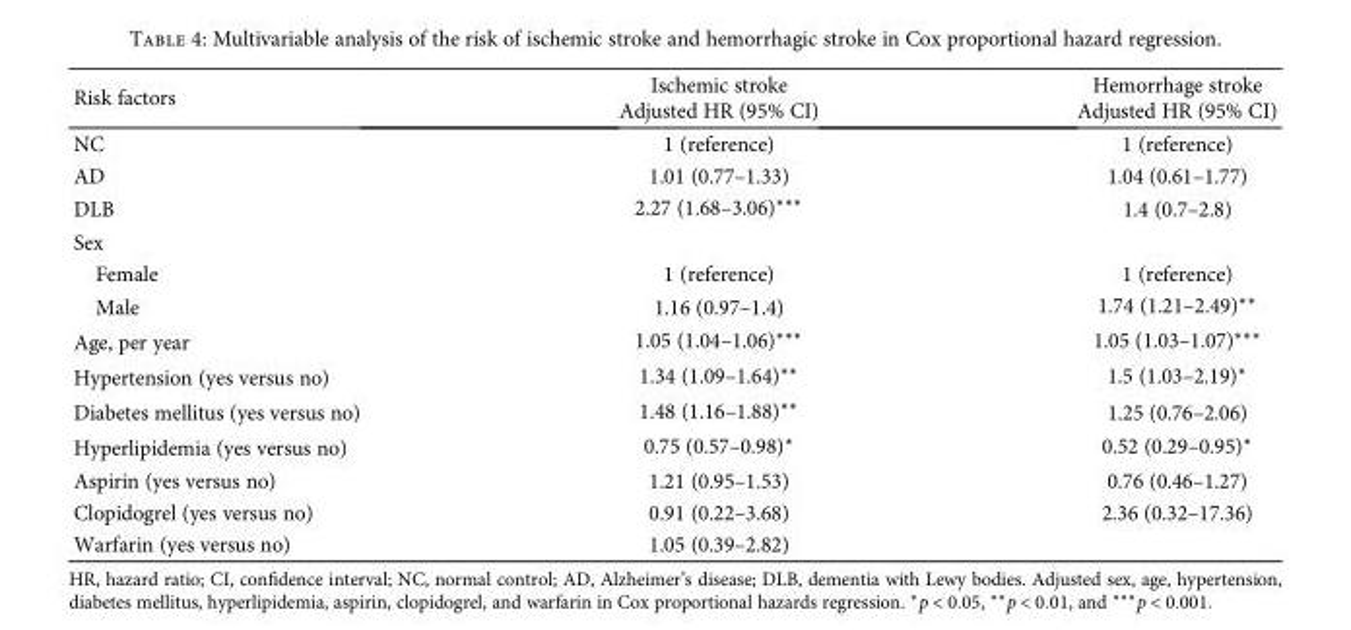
<table><thead><tr><td rowspan="2">Risk factors</td><td rowspan="2">Ischemic stroke Adjusted HR (95% CI)</td><td rowspan="2">Hemorrhage stroke Adjusted HR (95% CI)</td></tr><tr></tr></thead><tbody><tr><td>NC</td><td>1 (reference)</td><td>1 (reference)</td></tr><tr><td>AD</td><td>1.01 (0.77–1.33)</td><td>1.04 (0.61–1.77)</td></tr><tr><td>DLB</td><td>2.27 (1.68–3.06)∗∗∗</td><td>1.4 (0.7–2.8)</td></tr><tr><td colspan="3">Sex</td></tr><tr><td>Female</td><td>1 (reference)</td><td>1 (reference)</td></tr><tr><td>Male</td><td>1.16 (0.97–1.4)</td><td>1.74 (1.21–2.49)∗∗</td></tr><tr><td>Age, per year</td><td>1.05 (1.04–1.06)∗∗∗</td><td>1.05 (1.03–1.07)∗∗∗</td></tr><tr><td>Hypertension (yes versus no)</td><td>1.34 (1.09–1.64)∗∗</td><td>1.5 (1.03–2.19)∗</td></tr><tr><td>Diabetes mellitus (yes versus no)</td><td>1.48 (1.16–1.88)∗∗</td><td>1.25 (0.76–2.06)</td></tr><tr><td>Hyperlipidemia (yes versus no)</td><td>0.75 (0.57–0.98)∗</td><td>0.52 (0.29–0.95)∗</td></tr><tr><td>Aspirin (yes versus no)</td><td>1.21 (0.95–1.53)</td><td>0.76 (0.46–1.27)</td></tr><tr><td>Clopidogrel (yes versus no)</td><td>0.91 (0.22–3.68)</td><td>2.36 (0.32–17.36)</td></tr><tr><td>Warfarin (yes versus no)</td><td>1.05 (0.39–2.82)</td><td></td></tr></tbody></table>